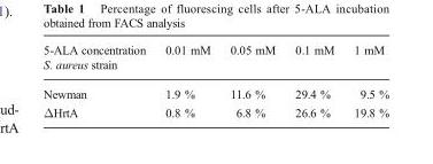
<table><thead><tr><td rowspan="2">5-ALA concentration S. aureus strain</td><td rowspan="2">0.01 mM</td><td rowspan="2">0.05 mM</td><td rowspan="2">0.1 mM</td><td rowspan="2">1 mM</td></tr><tr></tr></thead><tbody><tr><td>Newman</td><td>1.9 %</td><td>11.6 %</td><td>29.4 %</td><td>9.5 %</td></tr><tr><td>ΔHrtA</td><td>0.8 %</td><td>6.8 %</td><td>26.6 %</td><td>19.8 %</td></tr></tbody></table>